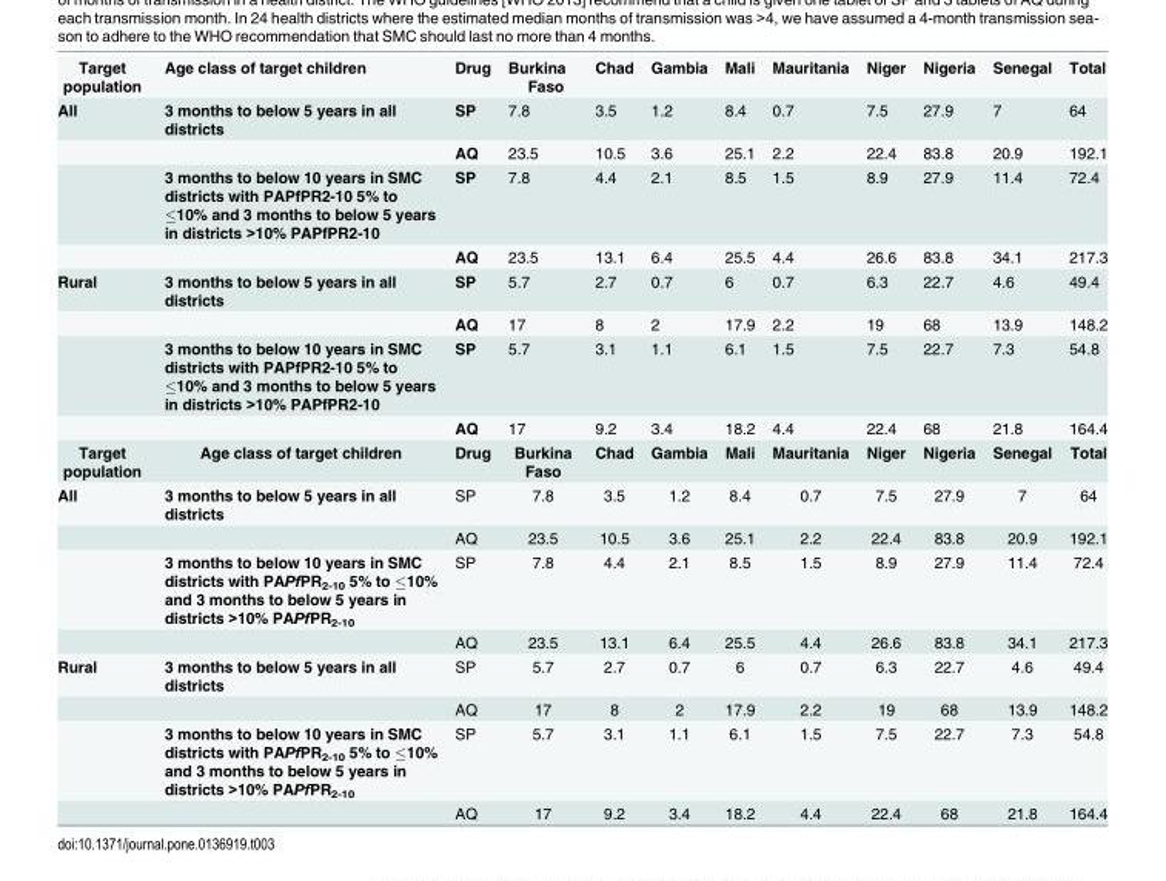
<table><tbody><tr><td>Target population</td><td>Age class of target children</td><td>Drug</td><td>Burkina Faso</td><td>Chad</td><td>Gambia</td><td>Mali</td><td>Mauritania</td><td>Niger</td><td>Nigeria</td><td>Senegal</td><td>Total</td></tr><tr><td rowspan="4">All</td><td>3 months to below 5 years in all districts</td><td>SP</td><td>7.8</td><td>3.5</td><td>1.2</td><td>8.4</td><td>0.7</td><td>7.5</td><td>27.9</td><td>7</td><td>64</td></tr><tr><td></td><td>AQ</td><td>23.5</td><td>10.5</td><td>3.6</td><td>25.1</td><td>2.2</td><td>22.4</td><td>83.8</td><td>20.9</td><td>192.1</td></tr><tr><td>3 months to below 10 years in SMC districts with PAPfPR2-10 5% to ≤10% and 3 months to below 5 years in districts &gt;10% PAPfPR2-10</td><td>SP</td><td>7.8</td><td>4.4</td><td>2.1</td><td>8.5</td><td>1.5</td><td>8.9</td><td>27.9</td><td>11.4</td><td>72.4</td></tr><tr><td></td><td>AQ</td><td>23.5</td><td>13.1</td><td>6.4</td><td>25.5</td><td>4.4</td><td>26.6</td><td>83.8</td><td>34.1</td><td>217.3</td></tr><tr><td rowspan="4">Rural</td><td>3 months to below 5 years in all districts</td><td>SP</td><td>5.7</td><td>2.7</td><td>0.7</td><td>6</td><td>0.7</td><td>6.3</td><td>22.7</td><td>4.6</td><td>49.4</td></tr><tr><td></td><td>AQ</td><td>17</td><td>8</td><td>2</td><td>17.9</td><td>2.2</td><td>19</td><td>68</td><td>13.9</td><td>148.2</td></tr><tr><td>3 months to below 10 years in SMC districts with PAPfPR2-10 5% to ≤10% and 3 months to below 5 years in districts &gt;10% PAPfPR2-10</td><td>SP</td><td>5.7</td><td>3.1</td><td>1.1</td><td>6.1</td><td>1.5</td><td>7.5</td><td>22.7</td><td>7.3</td><td>54.8</td></tr><tr><td></td><td>AQ</td><td>17</td><td>9.2</td><td>3.4</td><td>18.2</td><td>4.4</td><td>22.4</td><td>68</td><td>21.8</td><td>164.4</td></tr><tr><td>Target population</td><td>Age class of target children</td><td>Drug</td><td>Burkina Faso</td><td>Chad</td><td>Gambia</td><td>Mali</td><td>Mauritania</td><td>Niger</td><td>Nigeria</td><td>Senegal</td><td>Total</td></tr><tr><td rowspan="4">All</td><td>3 months to below 5 years in all districts</td><td>SP</td><td>7.8</td><td>3.5</td><td>1.2</td><td>8.4</td><td>0.7</td><td>7.5</td><td>27.9</td><td>7</td><td>64</td></tr><tr><td></td><td>AQ</td><td>23.5</td><td>10.5</td><td>3.6</td><td>25.1</td><td>2.2</td><td>22.4</td><td>83.8</td><td>20.9</td><td>192.1</td></tr><tr><td>3 months to below 10 years in SMC districts with PAPfPR<sub>2-10</sub> 5% to ≤10% and 3 months to below 5 years in districts &gt;10% PAPfPR<sub>2-10</sub></td><td>SP</td><td>7.8</td><td>4.4</td><td>2.1</td><td>8.5</td><td>1.5</td><td>8.9</td><td>27.9</td><td>11.4</td><td>72.4</td></tr><tr><td></td><td>AQ</td><td>23.5</td><td>13.1</td><td>6.4</td><td>25.5</td><td>4.4</td><td>26.6</td><td>83.8</td><td>34.1</td><td>217.3</td></tr><tr><td rowspan="4">Rural</td><td>3 months to below 5 years in all districts</td><td>SP</td><td>5.7</td><td>2.7</td><td>0.7</td><td>6</td><td>0.7</td><td>6.3</td><td>22.7</td><td>4.6</td><td>49.4</td></tr><tr><td></td><td>AQ</td><td>17</td><td>8</td><td>2</td><td>17.9</td><td>2.2</td><td>19</td><td>68</td><td>13.9</td><td>148.2</td></tr><tr><td>3 months to below 10 years in SMC districts with PAPfPR<sub>2-10</sub> 5% to ≤10% and 3 months to below 5 years in districts &gt;10% PAPfPR<sub>2-10</sub></td><td>SP</td><td>5.7</td><td>3.1</td><td>1.1</td><td>6.1</td><td>1.5</td><td>7.5</td><td>22.7</td><td>7.3</td><td>54.8</td></tr><tr><td></td><td>AQ</td><td>17</td><td>9.2</td><td>3.4</td><td>18.2</td><td>4.4</td><td>22.4</td><td>68</td><td>21.8</td><td>164.4</td></tr></tbody></table>